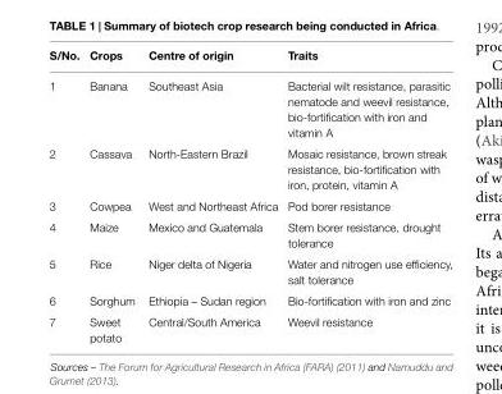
<table><thead><tr><td>S/No.</td><td>Crops</td><td>Centre of origin</td><td>Traits</td></tr></thead><tbody><tr><td>1</td><td>Banana</td><td>Southeast Asia</td><td>Bacterial wilt resistance, parasitic nematode and weevil resistance, bio-fortification with iron and vitamin A</td></tr><tr><td>2</td><td>Cassava</td><td>North-Eastern Brazil</td><td>Mosaic resistance, brown streak resistance, bio-fortification with iron, protein, vitamin A</td></tr><tr><td>3</td><td>Cowpea</td><td>West and Northeast Africa</td><td>Pod borer resistance</td></tr><tr><td>4</td><td>Maize</td><td>Mexico and Guatemala</td><td>Stem borer resistance, drought tolerance</td></tr><tr><td>5</td><td>Rice</td><td>Niger delta of Nigeria</td><td>Water and nitrogen use efficiency, salt tolerance</td></tr><tr><td>6</td><td>Sorghum</td><td>Ethiopia – Sudan region</td><td>Bio-fortification with iron and zinc</td></tr><tr><td>7</td><td>Sweet potato</td><td>Central/South America</td><td>Weevil resistance</td></tr></tbody></table>